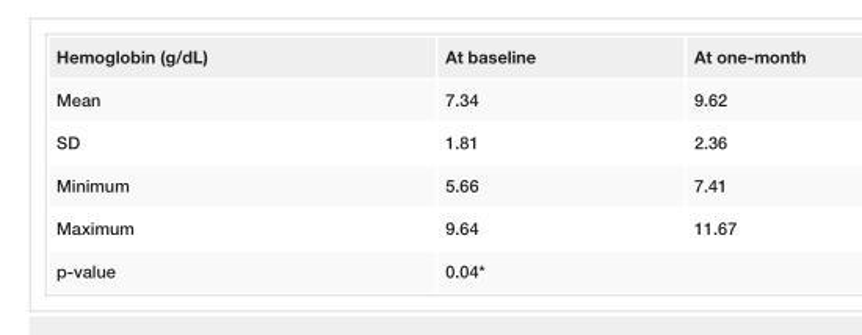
<table><tbody><tr><td>Hemoglobin (g/dL)</td><td>At baseline</td><td>At one-month</td></tr><tr><td>Mean</td><td>7.34</td><td>9.62</td></tr><tr><td>SD</td><td>1.81</td><td>2.36</td></tr><tr><td>Minimum</td><td>5.66</td><td>7.41</td></tr><tr><td>Maximum</td><td>9.64</td><td>11.67</td></tr><tr><td>p-value</td><td colspan="2">0.04*</td></tr></tbody></table>